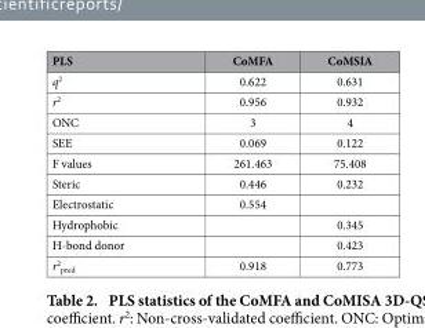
<table><thead><tr><td>PLS</td><td>CoMFA</td><td>CoMSIA</td></tr></thead><tbody><tr><td>q<sup>2</sup></td><td>0.622</td><td>0.631</td></tr><tr><td>r<sup>2</sup></td><td>0.956</td><td>0.932</td></tr><tr><td>ONC</td><td>3</td><td>4</td></tr><tr><td>SEE</td><td>0.069</td><td>0.122</td></tr><tr><td>F values</td><td>261.463</td><td>75.408</td></tr><tr><td>Steric</td><td>0.446</td><td>0.232</td></tr><tr><td>Electrostatic</td><td>0.554</td><td></td></tr><tr><td>Hydrophobic</td><td></td><td>0.345</td></tr><tr><td>H-bond donor</td><td></td><td>0.423</td></tr><tr><td>r<sup>2</sup> <sub>pred</sub></td><td>0.918</td><td>0.773</td></tr></tbody></table>